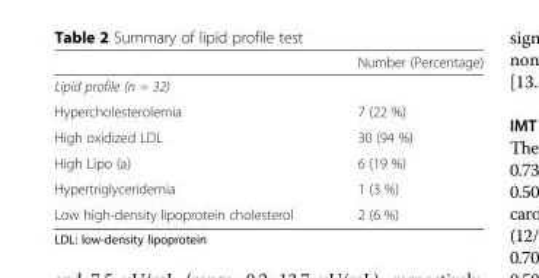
<table><thead><tr><td></td><td>Number (Percentage)</td></tr></thead><tbody><tr><td colspan="2">Lipid profile (n = 32)</td></tr><tr><td>Hypercholesterolemia</td><td>7 (22 %)</td></tr><tr><td>High oxidized LDL</td><td>30 (94 %)</td></tr><tr><td>High Lipo (a)</td><td>6 (19 %)</td></tr><tr><td>Hypertriglyceridemia</td><td>1 (3 %)</td></tr><tr><td>Low high-density lipoprotein cholesterol</td><td>2 (6 %)</td></tr></tbody></table>